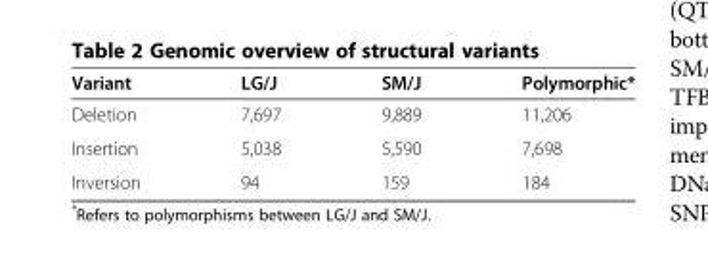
<table><thead><tr><td>Variant</td><td>LG/J</td><td>SM/J</td><td>Polymorphic*</td></tr></thead><tbody><tr><td>Deletion</td><td>7,697</td><td>9,889</td><td>11,206</td></tr><tr><td>Insertion</td><td>5,038</td><td>5,590</td><td>7,698</td></tr><tr><td>Inversion</td><td>94</td><td>159</td><td>184</td></tr></tbody></table>